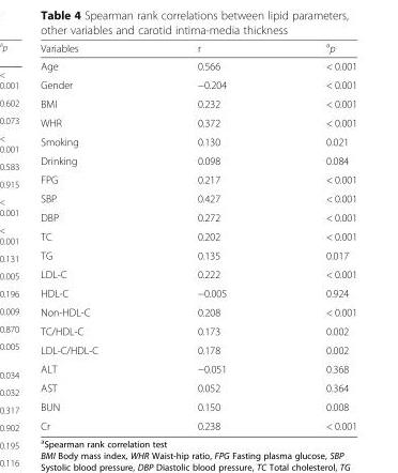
<table><thead><tr><td>Variables</td><td>r</td><td><sup>a</sup>p</td></tr></thead><tbody><tr><td>Age</td><td>0.566</td><td>&lt; 0.001</td></tr><tr><td>Gender</td><td>−0.204</td><td>&lt; 0.001</td></tr><tr><td>BMI</td><td>0.232</td><td>&lt; 0.001</td></tr><tr><td>WHR</td><td>0.372</td><td>&lt; 0.001</td></tr><tr><td>Smoking</td><td>0.130</td><td>0.021</td></tr><tr><td>Drinking</td><td>0.098</td><td>0.084</td></tr><tr><td>FPG</td><td>0.217</td><td>&lt; 0.001</td></tr><tr><td>SBP</td><td>0.427</td><td>&lt; 0.001</td></tr><tr><td>DBP</td><td>0.272</td><td>&lt; 0.001</td></tr><tr><td>TC</td><td>0.202</td><td>&lt; 0.001</td></tr><tr><td>TG</td><td>0.135</td><td>0.017</td></tr><tr><td>LDL-C</td><td>0.222</td><td>&lt; 0.001</td></tr><tr><td>HDL-C</td><td>−0.005</td><td>0.924</td></tr><tr><td>Non-HDL-C</td><td>0.208</td><td>&lt; 0.001</td></tr><tr><td>TC/HDL-C</td><td>0.173</td><td>0.002</td></tr><tr><td>LDL-C/HDL-C</td><td>0.178</td><td>0.002</td></tr><tr><td>ALT</td><td>−0.051</td><td>0.368</td></tr><tr><td>AST</td><td>0.052</td><td>0.364</td></tr><tr><td>BUN</td><td>0.150</td><td>0.008</td></tr><tr><td>Cr</td><td>0.238</td><td>&lt; 0.001</td></tr></tbody></table>